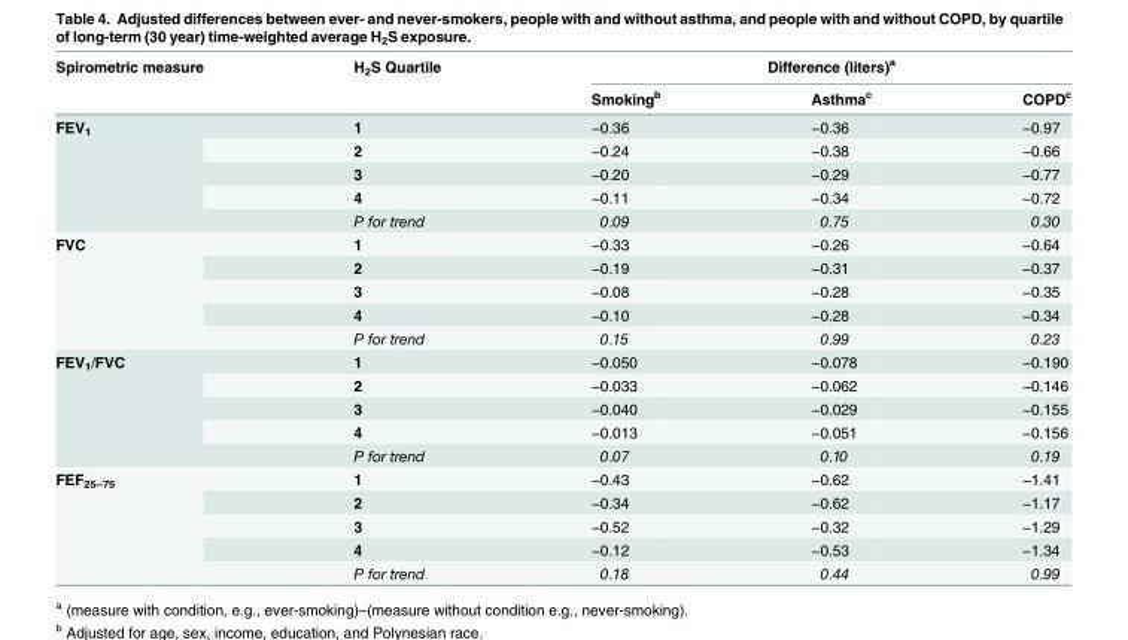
<table><thead><tr><td rowspan="2">Spirometric measure</td><td rowspan="2">H<sub>2</sub>S Quartile</td><td colspan="3">Difference (liters)<sup>a</sup></td></tr><tr><td>Smoking<sup>b</sup></td><td>Asthma<sup>c</sup></td><td>COPD<sup>c</sup></td></tr></thead><tbody><tr><td rowspan="5">FEV<sub>1</sub></td><td>1</td><td>−0.36</td><td>−0.36</td><td>−0.97</td></tr><tr><td>2</td><td>−0.24</td><td>−0.38</td><td>−0.66</td></tr><tr><td>3</td><td>−0.20</td><td>−0.29</td><td>−0.77</td></tr><tr><td>4</td><td>−0.11</td><td>−0.34</td><td>−0.72</td></tr><tr><td>P for trend</td><td>0.09</td><td>0.75</td><td>0.30</td></tr><tr><td rowspan="5">FVC</td><td>1</td><td>−0.33</td><td>−0.26</td><td>−0.64</td></tr><tr><td>2</td><td>−0.19</td><td>−0.31</td><td>−0.37</td></tr><tr><td>3</td><td>−0.08</td><td>−0.28</td><td>−0.35</td></tr><tr><td>4</td><td>−0.10</td><td>−0.28</td><td>−0.34</td></tr><tr><td>P for trend</td><td>0.15</td><td>0.99</td><td>0.23</td></tr><tr><td rowspan="5">FEV<sub>1</sub>/FVC</td><td>1</td><td>−0.050</td><td>−0.078</td><td>−0.190</td></tr><tr><td>2</td><td>−0.033</td><td>−0.062</td><td>−0.146</td></tr><tr><td>3</td><td>−0.040</td><td>−0.029</td><td>−0.155</td></tr><tr><td>4</td><td>−0.013</td><td>−0.051</td><td>−0.156</td></tr><tr><td>P for trend</td><td>0.07</td><td>0.10</td><td>0.19</td></tr><tr><td rowspan="5">FEF<sub>25–75</sub></td><td>1</td><td>−0.43</td><td>−0.62</td><td>−1.41</td></tr><tr><td>2</td><td>−0.34</td><td>−0.62</td><td>−1.17</td></tr><tr><td>3</td><td>−0.52</td><td>−0.32</td><td>−1.29</td></tr><tr><td>4</td><td>−0.12</td><td>−0.53</td><td>−1.34</td></tr><tr><td>P for trend</td><td>0.18</td><td>0.44</td><td>0.99</td></tr></tbody></table>